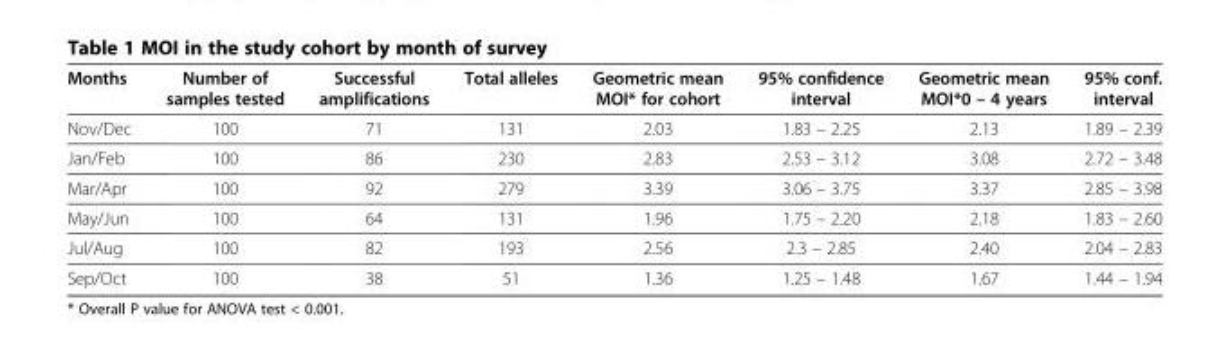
<table><thead><tr><td>Months</td><td>Number of samples tested</td><td>Successful amplifications</td><td>Total alleles</td><td>Geometric mean MOI* for cohort</td><td>95% confidence interval</td><td>Geometric mean MOI*0 – 4 years</td><td>95% conf. interval</td></tr></thead><tbody><tr><td>Nov/Dec</td><td>100</td><td>71</td><td>131</td><td>2.03</td><td>1.83 – 2.25</td><td>2.13</td><td>1.89 – 2.39</td></tr><tr><td>Jan/Feb</td><td>100</td><td>86</td><td>230</td><td>2.83</td><td>2.53 – 3.12</td><td>3.08</td><td>2.72 – 3.48</td></tr><tr><td>Mar/Apr</td><td>100</td><td>92</td><td>279</td><td>3.39</td><td>3.06 – 3.75</td><td>3.37</td><td>2.85 – 3.98</td></tr><tr><td>May/Jun</td><td>100</td><td>64</td><td>131</td><td>1.96</td><td>1.75 – 2.20</td><td>2.18</td><td>1.83 – 2.60</td></tr><tr><td>Jul/Aug</td><td>100</td><td>82</td><td>193</td><td>2.56</td><td>2.3 – 2.85</td><td>2.40</td><td>2.04 – 2.83</td></tr><tr><td>Sep/Oct</td><td>100</td><td>38</td><td>51</td><td>1.36</td><td>1.25 – 1.48</td><td>1.67</td><td>1.44 – 1.94</td></tr></tbody></table>